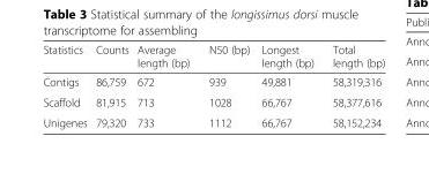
<table><thead><tr><td>Statistics</td><td>Counts</td><td>Average length (bp)</td><td>N50 (bp)</td><td>Longest length (bp)</td><td>Total length (bp)</td></tr></thead><tbody><tr><td>Contigs</td><td>86,759</td><td>672</td><td>939</td><td>49,881</td><td>58,319,316</td></tr><tr><td>Scaffold</td><td>81,915</td><td>713</td><td>1028</td><td>66,767</td><td>58,377,616</td></tr><tr><td>Unigenes</td><td>79,320</td><td>733</td><td>1112</td><td>66,767</td><td>58,152,234</td></tr></tbody></table>